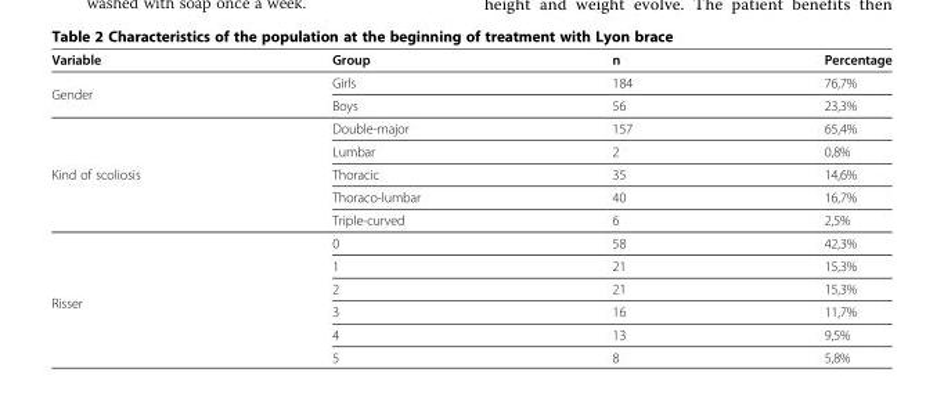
<table><thead><tr><td>Variable</td><td>Group</td><td>n</td><td>Percentage</td></tr></thead><tbody><tr><td rowspan="2">Gender</td><td>Girls</td><td>184</td><td>76,7%</td></tr><tr><td>Boys</td><td>56</td><td>23,3%</td></tr><tr><td rowspan="5">Kind of scoliosis</td><td>Double-major</td><td>157</td><td>65,4%</td></tr><tr><td>Lumbar</td><td>2</td><td>0,8%</td></tr><tr><td>Thoracic</td><td>35</td><td>14,6%</td></tr><tr><td>Thoraco-lumbar</td><td>40</td><td>16,7%</td></tr><tr><td>Triple-curved</td><td>6</td><td>2,5%</td></tr><tr><td rowspan="6">Risser</td><td>0</td><td>58</td><td>42,3%</td></tr><tr><td>1</td><td>21</td><td>15,3%</td></tr><tr><td>2</td><td>21</td><td>15,3%</td></tr><tr><td>3</td><td>16</td><td>11,7%</td></tr><tr><td>4</td><td>13</td><td>9,5%</td></tr><tr><td>5</td><td>8</td><td>5,8%</td></tr></tbody></table>